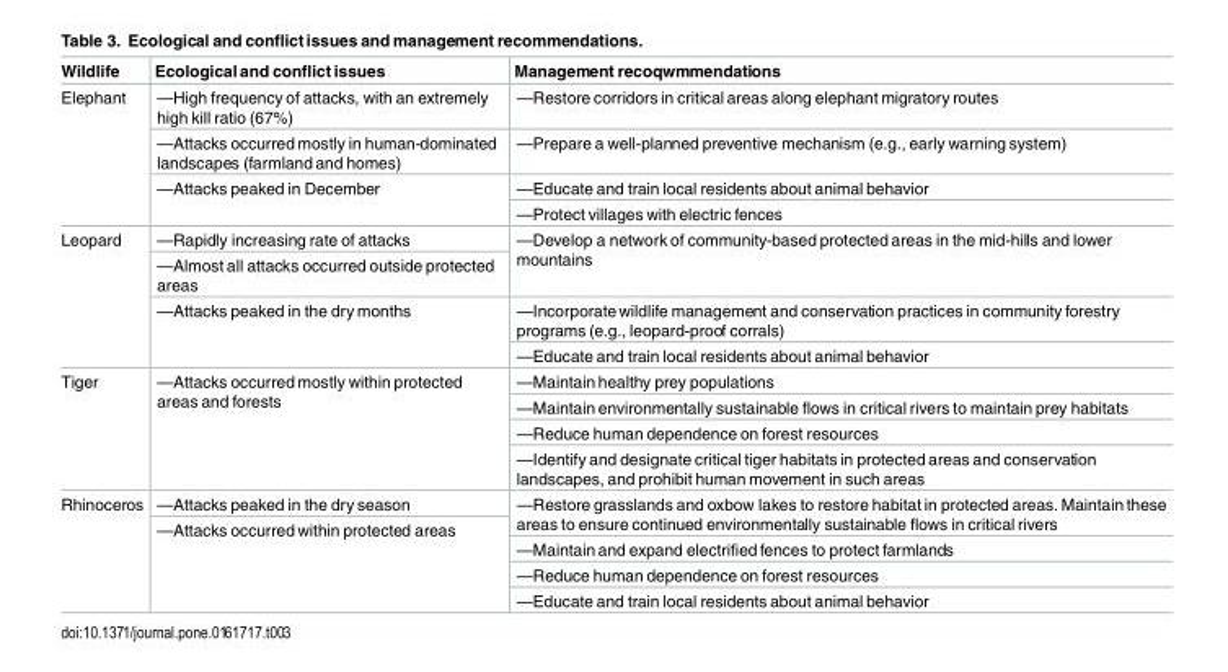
<table><thead><tr><td>Wildlife</td><td>Ecological and conflict issues</td><td>Management recoqwmmendations</td></tr></thead><tbody><tr><td rowspan="4">Elephant</td><td>—High frequency of attacks, with an extremely high kill ratio (67%)</td><td>—Restore corridors in critical areas along elephant migratory routes</td></tr><tr><td>—Attacks occurred mostly in human-dominated landscapes (farmland and homes)</td><td>—Prepare a well-planned preventive mechanism (e.g., early warning system)</td></tr><tr><td rowspan="2">—Attacks peaked in December</td><td>—Educate and train local residents about animal behavior</td></tr><tr><td>—Protect villages with electric fences</td></tr><tr><td rowspan="4">Leopard</td><td>—Rapidly increasing rate of attacks</td><td rowspan="2">—Develop a network of community-based protected areas in the mid-hills and lower mountains</td></tr><tr><td>—Almost all attacks occurred outside protected areas</td></tr><tr><td rowspan="2">—Attacks peaked in the dry months</td><td>—Incorporatewildlife management and conservation practices in community forestry programs (e.g., leopard-proof corrals)</td></tr><tr><td>—Educate and train local residents about animal behavior</td></tr><tr><td rowspan="4">Tiger</td><td rowspan="4">—Attacks occurred mostly within protected areas and forests</td><td>—Maintain healthy prey populations</td></tr><tr><td>—Maintain environmentally sustainable flows in critical rivers to maintain prey habitats</td></tr><tr><td>—Reduce human dependence on forest resources</td></tr><tr><td>—Identify and designate critical tiger habitats in protected areas and conservation landscapes, and prohibit human movement in such areas</td></tr><tr><td rowspan="5">Rhinoceros</td><td>—Attacks peaked in the dry season</td><td rowspan="2">—Restore grasslands and oxbow lakes to restore habitat in protected areas. Maintain these areas to ensure continued environmentally sustainable flows in critical rivers</td></tr><tr><td rowspan="4">—Attacks occurred within protected areas</td></tr><tr><td>—Maintain and expand electrified fences to protect farmlands</td></tr><tr><td>—Reduce human dependence on forest resources</td></tr><tr><td>—Educate and train local residents about animal behavior</td></tr></tbody></table>